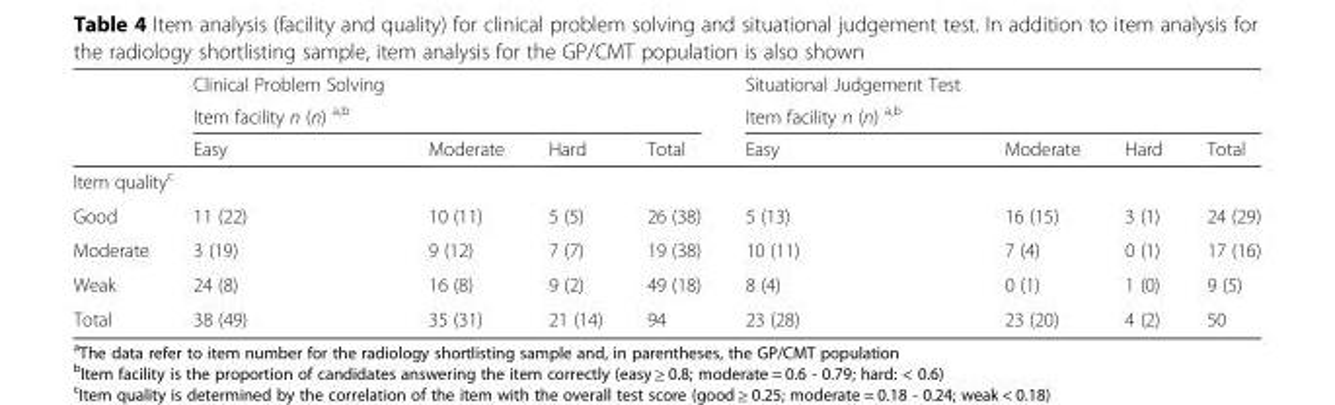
<table><thead><tr><td rowspan="3"></td><td>Clinical Problem Solving</td><td></td><td></td><td></td><td>Situational Judgement Test</td><td></td><td></td><td></td></tr><tr><td colspan="4">Item facility n (n) <sup>a,b</sup></td><td colspan="4">Item facility n (n) <sup>a,b</sup></td></tr><tr><td>Easy</td><td>Moderate</td><td>Hard</td><td>Total</td><td>Easy</td><td>Moderate</td><td>Hard</td><td>Total</td></tr></thead><tbody><tr><td colspan="9">Item quality<sup>c</sup></td></tr><tr><td>Good</td><td>11 (22)</td><td>10 (11)</td><td>5 (5)</td><td>26 (38)</td><td>5 (13)</td><td>16 (15)</td><td>3 (1)</td><td>24 (29)</td></tr><tr><td>Moderate</td><td>3 (19)</td><td>9 (12)</td><td>7 (7)</td><td>19 (38)</td><td>10 (11)</td><td>7 (4)</td><td>0 (1)</td><td>17 (16)</td></tr><tr><td>Weak</td><td>24 (8)</td><td>16 (8)</td><td>9 (2)</td><td>49 (18)</td><td>8 (4)</td><td>0 (1)</td><td>1 (0)</td><td>9 (5)</td></tr><tr><td>Total</td><td>38 (49)</td><td>35 (31)</td><td>21 (14)</td><td>94</td><td>23 (28)</td><td>23 (20)</td><td>4 (2)</td><td>50</td></tr></tbody></table>